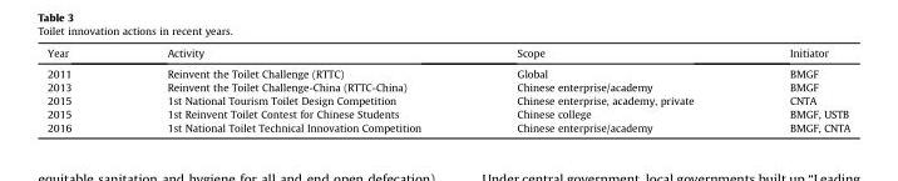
<table><thead><tr><td>Year</td><td>Activity</td><td>Scope</td><td>Initiator</td></tr></thead><tbody><tr><td>2011</td><td>Reinvent the Toilet Challenge (RTTC)</td><td>Global</td><td>BMGF</td></tr><tr><td>2013</td><td>Reinvent the Toilet Challenge-China (RTTC-China)</td><td>Chinese enterprise/academy</td><td>BMGF</td></tr><tr><td>2015</td><td>1st National Tourism Toilet Design Competition</td><td>Chinese enterprise, academy, private</td><td>CNTA</td></tr><tr><td>2015</td><td>1st Reinvent Toilet Contest for Chinese Students</td><td>Chinese college</td><td>BMGF, USTB</td></tr><tr><td>2016</td><td>1st National Toilet Technical Innovation Competition</td><td>Chinese enterprise/academy</td><td>BMGF, CNTA</td></tr></tbody></table>